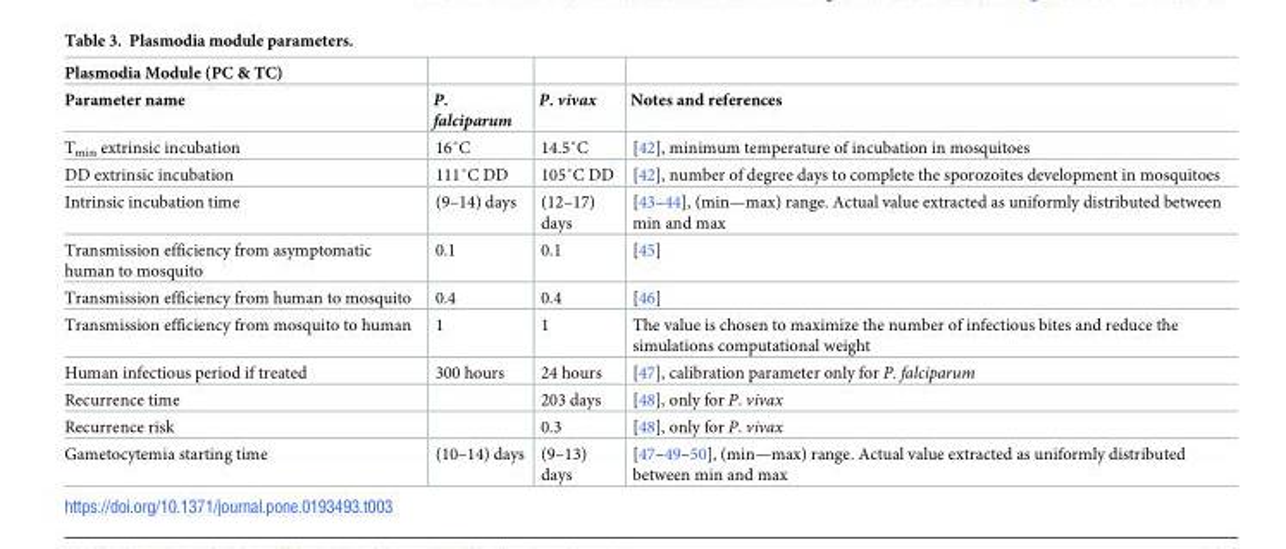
<table><thead><tr><td rowspan="2">Plasmodia Module (PC &amp; TC) Parameter name</td><td rowspan="2">P. falciparum</td><td rowspan="2">P. vivax</td><td rowspan="2">Notes and references</td></tr><tr></tr></thead><tbody><tr><td>T<sub>min</sub> extrinsic incubation</td><td>16˚C</td><td>14.5˚C</td><td>[42], minimum temperature of incubation in mosquitoes</td></tr><tr><td>DD extrinsic incubation</td><td>111˚C DD</td><td>105˚C DD</td><td>[42], number of degree days to complete the sporozoites development in mosquitoes</td></tr><tr><td>Intrinsic incubation time</td><td>(9–14) days</td><td>(12–17) days</td><td>[43–44], (min—max) range. Actual value extracted as uniformly distributed between min and max</td></tr><tr><td>Transmission efficiency from asymptomatic human to mosquito</td><td>0.1</td><td>0.1</td><td>[45]</td></tr><tr><td>Transmission efficiency from human to mosquito</td><td>0.4</td><td>0.4</td><td>[46]</td></tr><tr><td>Transmission efficiency from mosquito to human</td><td>1</td><td>1</td><td>The value is chosen to maximize the number of infectious bites and reduce the simulations computational weight</td></tr><tr><td>Human infectious period if treated</td><td>300 hours</td><td>24 hours</td><td>[47], calibration parameter only for P. falciparum</td></tr><tr><td>Recurrence time</td><td></td><td>203 days</td><td>[48], only for P. vivax</td></tr><tr><td>Recurrence risk</td><td></td><td>0.3</td><td>[48], only for P. vivax</td></tr><tr><td>Gametocytemia starting time</td><td>(10–14) days</td><td>(9–13) days</td><td>[47–49–50], (min—max) range. Actual value extracted as uniformly distributed between min and max</td></tr></tbody></table>